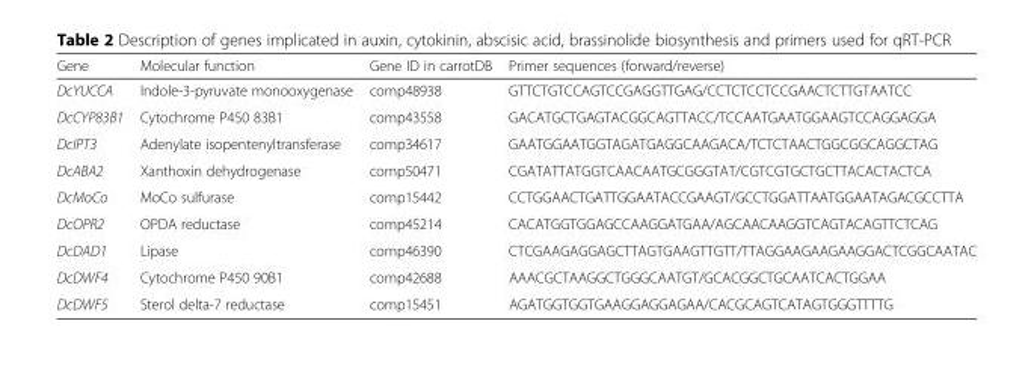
<table><thead><tr><td>Gene</td><td>Molecular function</td><td>Gene ID in carrotDB</td><td>Primer sequences (forward/reverse)</td></tr></thead><tbody><tr><td>DcYUCCA</td><td>Indole-3-pyruvate monooxygenase</td><td>comp48938</td><td>GTTCTGTCCAGTCCGAGGTTGAG/CCTCTCCTCCGAACTCTTGTAATCC</td></tr><tr><td>DcCYP83B1</td><td>Cytochrome P450 83B1</td><td>comp43558</td><td>GACATGCTGAGTACGGCAGTTACC/TCCAATGAATGGAAGTCCAGGAGGA</td></tr><tr><td>DcIPT3</td><td>Adenylate isopentenyltransferase</td><td>comp34617</td><td>GAATGGAATGGTAGATGAGGCAAGACA/TCTCTAACTGGCGGCAGGCTAG</td></tr><tr><td>DcABA2</td><td>Xanthoxin dehydrogenase</td><td>comp50471</td><td>CGATATTATGGTCAACAATGCGGGTAT/CGTCGTGCTGCTTACACTACTCA</td></tr><tr><td>DcMoCo</td><td>MoCo sulfurase</td><td>comp15442</td><td>CCTGGAACTGATTGGAATACCGAAGT/GCCTGGATTAATGGAATAGACGCCTTA</td></tr><tr><td>DcOPR2</td><td>OPDA reductase</td><td>comp45214</td><td>CACATGGTGGAGCCAAGGATGAA/AGCAACAAGGTCAGTACAGTTCTCAG</td></tr><tr><td>DcDAD1</td><td>Lipase</td><td>comp46390</td><td>CTCGAAGAGGAGCTTAGTGAAGTTGTT/TTAGGAAGAAGAAGGACTCGGCAATAC</td></tr><tr><td>DcDWF4</td><td>Cytochrome P450 90B1</td><td>comp42688</td><td>AAACGCTAAGGCTGGGCAATGT/GCACGGCTGCAATCACTGGAA</td></tr><tr><td>DcDWF5</td><td>Sterol delta-7 reductase</td><td>comp15451</td><td>AGATGGTGGTGAAGGAGGAGAA/CACGCAGTCATAGTGGGTTTTG</td></tr></tbody></table>